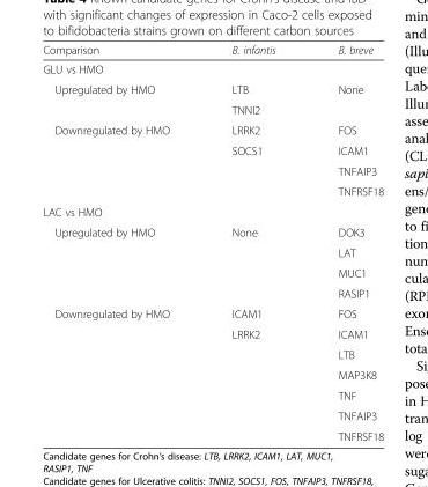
<table><thead><tr><td>Comparison</td><td>B. infantis</td><td>B. breve</td></tr></thead><tbody><tr><td colspan="3">GLU vs HMO</td></tr><tr><td rowspan="2">Upregulated by HMO</td><td>LTB</td><td>None</td></tr><tr><td>TNNI2</td><td></td></tr><tr><td rowspan="4">Downregulated by HMO</td><td>LRRK2</td><td>FOS</td></tr><tr><td>SOCS1</td><td>ICAM1</td></tr><tr><td></td><td>TNFAIP3</td></tr><tr><td></td><td>TNFRSF18</td></tr><tr><td colspan="3">LAC vs HMO</td></tr><tr><td rowspan="4">Upregulated by HMO</td><td>None</td><td>DOK3</td></tr><tr><td></td><td>LAT</td></tr><tr><td></td><td>MUC1</td></tr><tr><td></td><td>RASIP1</td></tr><tr><td rowspan="7">Downregulated by HMO</td><td>ICAM1</td><td>FOS</td></tr><tr><td>LRRK2</td><td>ICAM1</td></tr><tr><td></td><td>LTB</td></tr><tr><td></td><td>MAP3K8</td></tr><tr><td></td><td>TNF</td></tr><tr><td></td><td>TNFAIP3</td></tr><tr><td></td><td>TNFRSF18</td></tr></tbody></table>